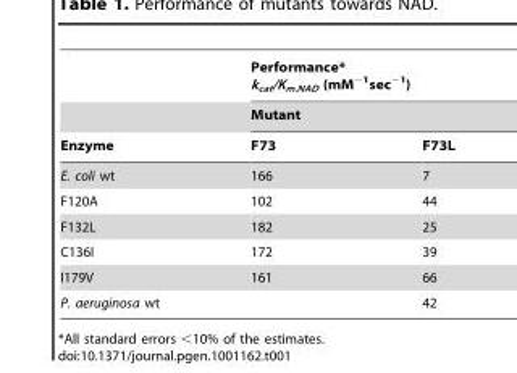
<table><thead><tr><td rowspan="3">Enzyme</td><td rowspan="2" colspan="2">Performance* k<sub>cat</sub>/K<sub>m.NAD</sub> (mM<sup>−1</sup>sec<sup>−1</sup>) Mutant</td></tr><tr></tr><tr><td>F73</td><td>F73L</td></tr></thead><tbody><tr><td>E. coli wt</td><td>166</td><td>7</td></tr><tr><td>F120A</td><td>102</td><td>44</td></tr><tr><td>F132L</td><td>182</td><td>25</td></tr><tr><td>C136I</td><td>172</td><td>39</td></tr><tr><td>I179V</td><td>161</td><td>66</td></tr><tr><td>P. aeruginosa wt</td><td></td><td>42</td></tr></tbody></table>